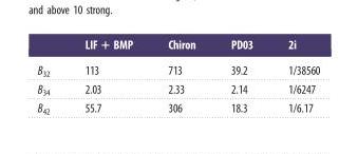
<table><thead><tr><td></td><td>LIF + BMP</td><td>Chiron</td><td>PD03</td><td>2i</td></tr></thead><tbody><tr><td>B<sub>32</sub></td><td>113</td><td>713</td><td>39.2</td><td>1/38560</td></tr><tr><td>B<sub>34</sub></td><td>2.03</td><td>2.33</td><td>2.14</td><td>1/6247</td></tr><tr><td>B<sub>42</sub></td><td>55.7</td><td>306</td><td>18.3</td><td>1/6.17</td></tr></tbody></table>